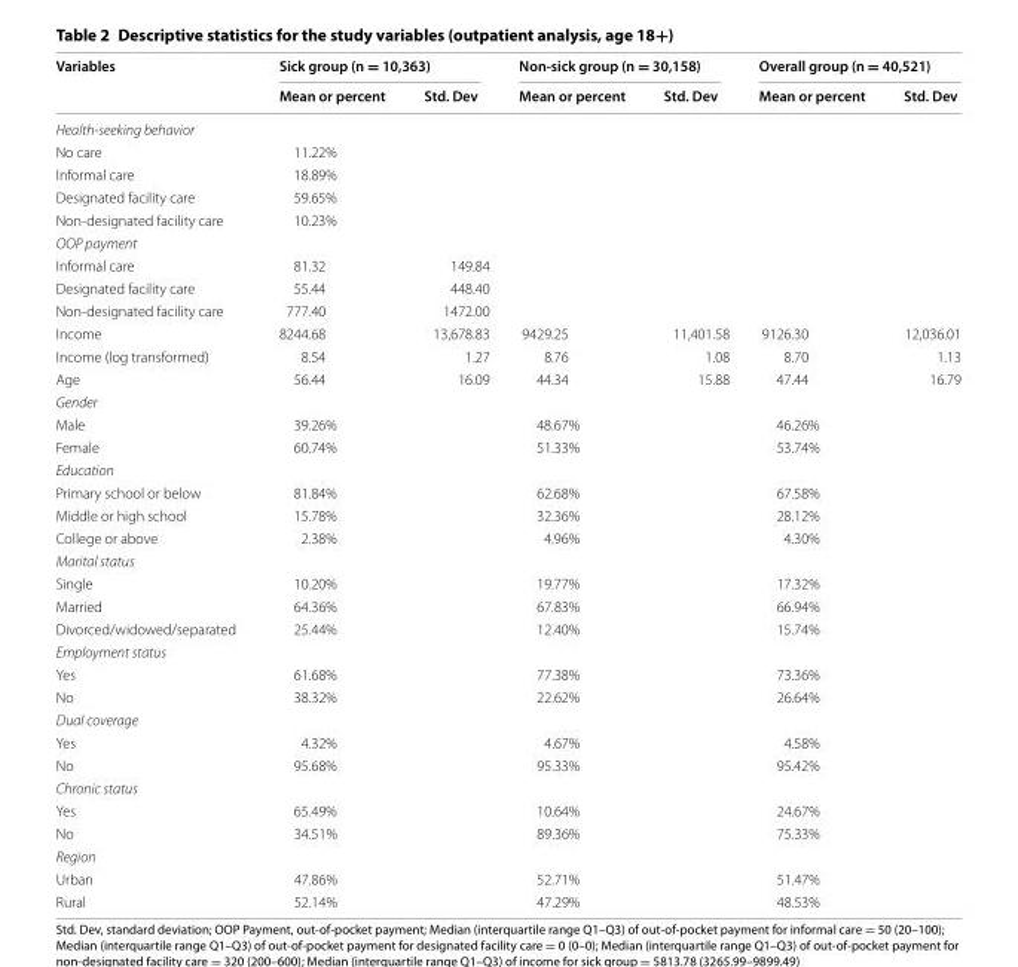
<table><thead><tr><td rowspan="2">Variables</td><td colspan="2">Sick group (n = 10,363)</td><td colspan="2">Non-sick group (n = 30,158)</td><td colspan="2">Overall group (n = 40,521)</td></tr><tr><td>Mean or percent</td><td>Std. Dev</td><td>Mean or percent</td><td>Std. Dev</td><td>Mean or percent</td><td>Std. Dev</td></tr></thead><tbody><tr><td colspan="7">Health-seeking behavior</td></tr><tr><td>No care</td><td>11.22%</td><td></td><td></td><td></td><td></td><td></td></tr><tr><td>Informal care</td><td>18.89%</td><td></td><td></td><td></td><td></td><td></td></tr><tr><td>Designated facility care</td><td>59.65%</td><td></td><td></td><td></td><td></td><td></td></tr><tr><td>Non-designated facility care</td><td>10.23%</td><td></td><td></td><td></td><td></td><td></td></tr><tr><td colspan="7">OOP payment</td></tr><tr><td>Informal care</td><td>81.32</td><td>149.84</td><td></td><td></td><td></td><td></td></tr><tr><td>Designated facility care</td><td>55.44</td><td>448.40</td><td></td><td></td><td></td><td></td></tr><tr><td>Non-designated facility care</td><td>777.40</td><td>1472.00</td><td></td><td></td><td></td><td></td></tr><tr><td>Income</td><td>8244.68</td><td>13,678.83</td><td>9429.25</td><td>11,401.58</td><td>9126.30</td><td>12,036.01</td></tr><tr><td>Income (log transformed)</td><td>8.54</td><td>1.27</td><td>8.76</td><td>1.08</td><td>8.70</td><td>1.13</td></tr><tr><td>Age</td><td>56.44</td><td>16.09</td><td>44.34</td><td>15.88</td><td>47.44</td><td>16.79</td></tr><tr><td colspan="7">Gender</td></tr><tr><td>Male</td><td>39.26%</td><td></td><td>48.67%</td><td></td><td>46.26%</td><td></td></tr><tr><td>Female</td><td>60.74%</td><td></td><td>51.33%</td><td></td><td>53.74%</td><td></td></tr><tr><td colspan="7">Education</td></tr><tr><td>Primary school or below</td><td>81.84%</td><td></td><td>62.68%</td><td></td><td>67.58%</td><td></td></tr><tr><td>Middle or high school</td><td>15.78%</td><td></td><td>32.36%</td><td></td><td>28.12%</td><td></td></tr><tr><td>College or above</td><td>2.38%</td><td></td><td>4.96%</td><td></td><td>4.30%</td><td></td></tr><tr><td colspan="7">Marital status</td></tr><tr><td>Single</td><td>10.20%</td><td></td><td>19.77%</td><td></td><td>17.32%</td><td></td></tr><tr><td>Married</td><td>64.36%</td><td></td><td>67.83%</td><td></td><td>66.94%</td><td></td></tr><tr><td>Divorced/widowed/separated</td><td>25.44%</td><td></td><td>12.40%</td><td></td><td>15.74%</td><td></td></tr><tr><td colspan="7">Employment status</td></tr><tr><td>Yes</td><td>61.68%</td><td></td><td>77.38%</td><td></td><td>73.36%</td><td></td></tr><tr><td>No</td><td>38.32%</td><td></td><td>22.62%</td><td></td><td>26.64%</td><td></td></tr><tr><td colspan="7">Dual coverage</td></tr><tr><td>Yes</td><td>4.32%</td><td></td><td>4.67%</td><td></td><td>4.58%</td><td></td></tr><tr><td>No</td><td>95.68%</td><td></td><td>95.33%</td><td></td><td>95.42%</td><td></td></tr><tr><td colspan="7">Chronic status</td></tr><tr><td>Yes</td><td>65.49%</td><td></td><td>10.64%</td><td></td><td>24.67%</td><td></td></tr><tr><td>No</td><td>34.51%</td><td></td><td>89.36%</td><td></td><td>75.33%</td><td></td></tr><tr><td colspan="7">Region</td></tr><tr><td>Urban</td><td>47.86%</td><td></td><td>52.71%</td><td></td><td>51.47%</td><td></td></tr><tr><td>Rural</td><td>52.14%</td><td></td><td>47.29%</td><td></td><td>48.53%</td><td></td></tr></tbody></table>